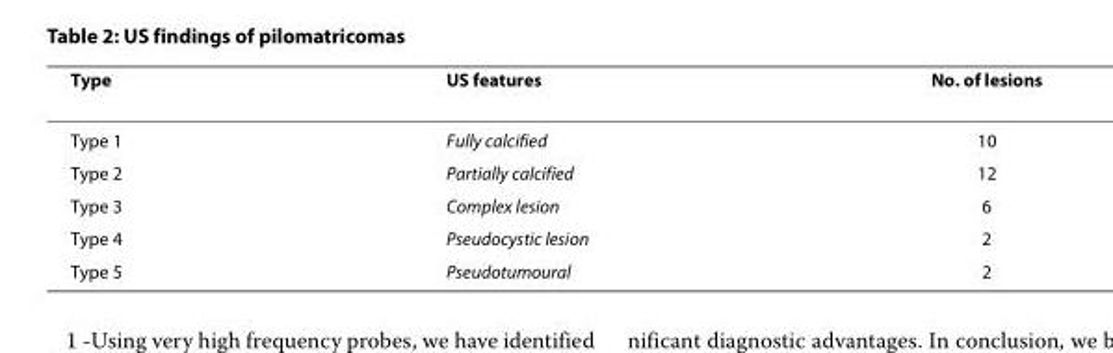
<table><thead><tr><td>Type</td><td>US features</td><td>No. of lesions</td></tr></thead><tbody><tr><td>Type 1</td><td>Fully calcified</td><td>10</td></tr><tr><td>Type 2</td><td>Partially calcified</td><td>12</td></tr><tr><td>Type 3</td><td>Complex lesion</td><td>6</td></tr><tr><td>Type 4</td><td>Pseudocystic lesion</td><td>2</td></tr><tr><td>Type 5</td><td>Pseudotumoural</td><td>2</td></tr></tbody></table>